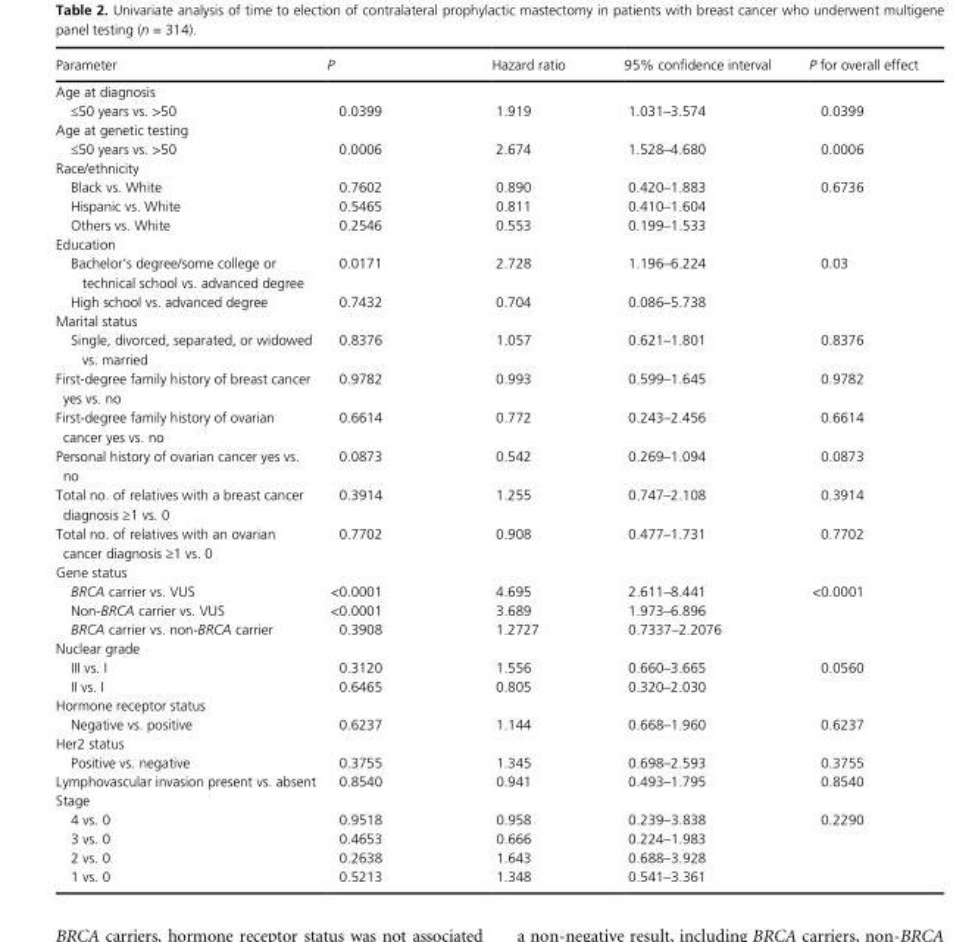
<table><thead><tr><td>Parameter</td><td>P</td><td>Hazard ratio</td><td>95% confidence interval</td><td>P for overall effect</td></tr></thead><tbody><tr><td colspan="5">Age at diagnosis</td></tr><tr><td>≤50 years vs. &gt;50</td><td>0.0399</td><td>1.919</td><td>1.031–3.574</td><td>0.0399</td></tr><tr><td colspan="5">Age at genetic testing</td></tr><tr><td>≤50 years vs. &gt;50</td><td>0.0006</td><td>2.674</td><td>1.528–4.680</td><td>0.0006</td></tr><tr><td colspan="5">Race/ethnicity</td></tr><tr><td>Black vs. White</td><td>0.7602</td><td>0.890</td><td>0.420–1.883</td><td rowspan="3">0.6736</td></tr><tr><td>Hispanic vs. White</td><td>0.5465</td><td>0.811</td><td>0.410–1.604</td></tr><tr><td>Others vs. White</td><td>0.2546</td><td>0.553</td><td>0.199–1.533</td></tr><tr><td colspan="5">Education</td></tr><tr><td>Bachelor’s degree/some college or technical school vs. advanced degree</td><td>0.0171</td><td>2.728</td><td>1.196–6.224</td><td rowspan="2">0.03</td></tr><tr><td>High school vs. advanced degree</td><td>0.7432</td><td>0.704</td><td>0.086–5.738</td></tr><tr><td colspan="5">Marital status</td></tr><tr><td>Single, divorced, separated, or widowed vs. married</td><td>0.8376</td><td>1.057</td><td>0.621–1.801</td><td>0.8376</td></tr><tr><td>First- degree family history of breast cancer yes vs. no</td><td>0.9782</td><td>0.993</td><td>0.599–1.645</td><td>0.9782</td></tr><tr><td>First- degree family history of ovarian cancer yes vs. no</td><td>0.6614</td><td>0.772</td><td>0.243–2.456</td><td>0.6614</td></tr><tr><td>Personal history of ovarian cancer yes vs. no</td><td>0.0873</td><td>0.542</td><td>0.269–1.094</td><td>0.0873</td></tr><tr><td>Total no. of relatives with a breast cancer diagnosis ≥1 vs. 0</td><td>0.3914</td><td>1.255</td><td>0.747–2.108</td><td>0.3914</td></tr><tr><td>Total no. of relatives with an ovarian cancer diagnosis ≥1 vs. 0</td><td>0.7702</td><td>0.908</td><td>0.477–1.731</td><td>0.7702</td></tr><tr><td colspan="5">Gene status</td></tr><tr><td>BRCA carrier vs. VUS</td><td>&lt;0.0001</td><td>4.695</td><td>2.611–8.441</td><td rowspan="3">&lt;0.0001</td></tr><tr><td>Non- BRCA carrier vs. VUS</td><td>&lt;0.0001</td><td>3.689</td><td>1.973–6.896</td></tr><tr><td>BRCA carrier vs. non- BRCA carrier</td><td>0.3908</td><td>1.2727</td><td>0.7337–2.2076</td></tr><tr><td colspan="5">Nuclear grade</td></tr><tr><td>III vs. I</td><td>0.3120</td><td>1.556</td><td>0.660–3.665</td><td rowspan="2">0.0560</td></tr><tr><td>II vs. I</td><td>0.6465</td><td>0.805</td><td>0.320–2.030</td></tr><tr><td colspan="5">Hormone receptor status</td></tr><tr><td>Negative vs. positive</td><td>0.6237</td><td>1.144</td><td>0.668–1.960</td><td>0.6237</td></tr><tr><td colspan="5">Her2 status</td></tr><tr><td>Positive vs. negative</td><td>0.3755</td><td>1.345</td><td>0.698–2.593</td><td>0.3755</td></tr><tr><td>Lymphovascular invasion present vs. absent</td><td>0.8540</td><td>0.941</td><td>0.493–1.795</td><td>0.8540</td></tr><tr><td colspan="5">Stage</td></tr><tr><td>4 vs. 0</td><td>0.9518</td><td>0.958</td><td>0.239–3.838</td><td rowspan="4">0.2290</td></tr><tr><td>3 vs. 0</td><td>0.4653</td><td>0.666</td><td>0.224–1.983</td></tr><tr><td>2 vs. 0</td><td>0.2638</td><td>1.643</td><td>0.688–3.928</td></tr><tr><td>1 vs. 0</td><td>0.5213</td><td>1.348</td><td>0.541–3.361</td></tr></tbody></table>